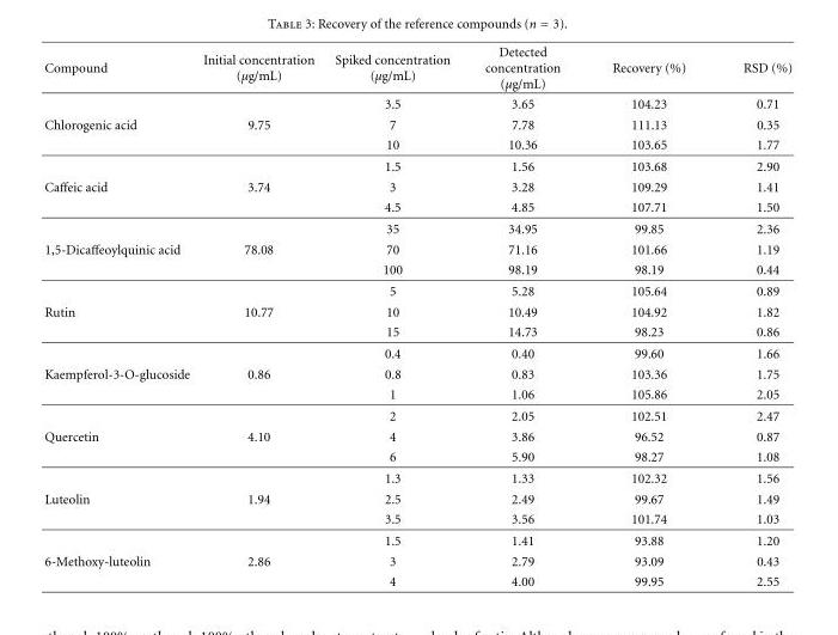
<table><thead><tr><td>Compound</td><td>Initial concentration (μg/mL)</td><td>Spiked concentration (μg/mL)</td><td>Detected concentration (μg/mL)</td><td>Recovery (%)</td><td>RSD (%)</td></tr></thead><tbody><tr><td></td><td></td><td>3.5</td><td>3.65</td><td>104.23</td><td>0.71</td></tr><tr><td rowspan="3">Chlorogenic acid</td><td>9.75</td><td>7</td><td>7.78</td><td>111.13</td><td>0.35</td></tr><tr><td></td><td>10</td><td>10.36</td><td>103.65</td><td>1.77</td></tr><tr><td></td><td>1.5</td><td>1.56</td><td>103.68</td><td>2.90</td></tr><tr><td rowspan="3">Caffeic acid</td><td>3.74</td><td>3</td><td>3.28</td><td>109.29</td><td>1.41</td></tr><tr><td></td><td>4.5</td><td>4.85</td><td>107.71</td><td>1.50</td></tr><tr><td></td><td>35</td><td>34.95</td><td>99.85</td><td>2.36</td></tr><tr><td rowspan="3">1,5-Dicaffeoylquinic acid</td><td>78.08</td><td>70</td><td>71.16</td><td>101.66</td><td>1.19</td></tr><tr><td></td><td>100</td><td>98.19</td><td>98.19</td><td>0.44</td></tr><tr><td></td><td>5</td><td>5.28</td><td>105.64</td><td>0.89</td></tr><tr><td rowspan="3">Rutin</td><td>10.77</td><td>10</td><td>10.49</td><td>104.92</td><td>1.82</td></tr><tr><td></td><td>15</td><td>14.73</td><td>98.23</td><td>0.86</td></tr><tr><td></td><td>0.4</td><td>0.40</td><td>99.60</td><td>1.66</td></tr><tr><td rowspan="3">Kaempferol-3-O-glucoside</td><td>0.86</td><td>0.8</td><td>0.83</td><td>103.36</td><td>1.75</td></tr><tr><td></td><td>1</td><td>1.06</td><td>105.86</td><td>2.05</td></tr><tr><td></td><td>2</td><td>2.05</td><td>102.51</td><td>2.47</td></tr><tr><td rowspan="3">Quercetin</td><td>4.10</td><td>4</td><td>3.86</td><td>96.52</td><td>0.87</td></tr><tr><td></td><td>6</td><td>5.90</td><td>98.27</td><td>1.08</td></tr><tr><td></td><td>1.3</td><td>1.33</td><td>102.32</td><td>1.56</td></tr><tr><td rowspan="3">Luteolin</td><td>1.94</td><td>2.5</td><td>2.49</td><td>99.67</td><td>1.49</td></tr><tr><td></td><td>3.5</td><td>3.56</td><td>101.74</td><td>1.03</td></tr><tr><td></td><td>1.5</td><td>1.41</td><td>93.88</td><td>1.20</td></tr><tr><td rowspan="2">6-Methoxy-luteolin</td><td>2.86</td><td>3</td><td>2.79</td><td>93.09</td><td>0.43</td></tr><tr><td></td><td>4</td><td>4.00</td><td>99.95</td><td>2.55</td></tr></tbody></table>